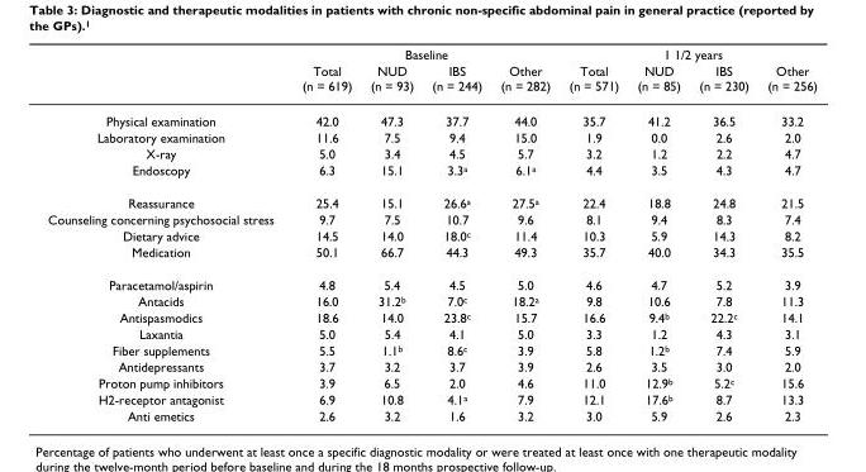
<table><thead><tr><td rowspan="2"></td><td colspan="4">Baseline</td><td colspan="4">1 1/2 years</td></tr><tr><td>Total (n = 619)</td><td>NUD (n = 93)</td><td>IBS (n = 244)</td><td>Other (n = 282)</td><td>Total (n = 571)</td><td>NUD (n = 85)</td><td>IBS (n = 230)</td><td>Other (n = 256)</td></tr></thead><tbody><tr><td>Physical examination</td><td>42.0</td><td>47.3</td><td>37.7</td><td>44.0</td><td>35.7</td><td>41.2</td><td>36.5</td><td>33.2</td></tr><tr><td>Laboratory examination</td><td>11.6</td><td>7.5</td><td>9.4</td><td>15.0</td><td>1.9</td><td>0.0</td><td>2.6</td><td>2.0</td></tr><tr><td>X-ray</td><td>5.0</td><td>3.4</td><td>4.5</td><td>5.7</td><td>3.2</td><td>1.2</td><td>2.2</td><td>4.7</td></tr><tr><td>Endoscopy</td><td>6.3</td><td>15.1</td><td>3.3<sup>a</sup></td><td>6.1<sup>a</sup></td><td>4.4</td><td>3.5</td><td>4.3</td><td>4.7</td></tr><tr><td>Reassurance</td><td>25.4</td><td>15.1</td><td>26.6<sup>a</sup></td><td>27.5<sup>a</sup></td><td>22.4</td><td>18.8</td><td>24.8</td><td>21.5</td></tr><tr><td>Counseling concerning psychosocial stress</td><td>9.7</td><td>7.5</td><td>10.7</td><td>9.6</td><td>8.1</td><td>9.4</td><td>8.3</td><td>7.4</td></tr><tr><td>Dietary advice</td><td>14.5</td><td>14.0</td><td>18.0<sup>c</sup></td><td>11.4</td><td>10.3</td><td>5.9</td><td>14.3</td><td>8.2</td></tr><tr><td>Medication</td><td>50.1</td><td>66.7</td><td>44.3</td><td>49.3</td><td>35.7</td><td>40.0</td><td>34.3</td><td>35.5</td></tr><tr><td>Paracetamol/aspirin</td><td>4.8</td><td>5.4</td><td>4.5</td><td>5.0</td><td>4.6</td><td>4.7</td><td>5.2</td><td>3.9</td></tr><tr><td>Antacids</td><td>16.0</td><td>31.2<sup>b</sup></td><td>7.0<sup>c</sup></td><td>18.2<sup>a</sup></td><td>9.8</td><td>10.6</td><td>7.8</td><td>11.3</td></tr><tr><td>Antispasmodics</td><td>18.6</td><td>14.0</td><td>23.8<sup>c</sup></td><td>15.7</td><td>16.6</td><td>9.4<sup>b</sup></td><td>22.2<sup>c</sup></td><td>14.1</td></tr><tr><td>Laxantia</td><td>5.0</td><td>5.4</td><td>4.1</td><td>5.0</td><td>3.3</td><td>1.2</td><td>4.3</td><td>3.1</td></tr><tr><td>Fiber supplements</td><td>5.5</td><td>1.1<sup>b</sup></td><td>8.6<sup>c</sup></td><td>3.9</td><td>5.8</td><td>1.2<sup>b</sup></td><td>7.4</td><td>5.9</td></tr><tr><td>Antidepressants</td><td>3.7</td><td>3.2</td><td>3.7</td><td>3.9</td><td>2.6</td><td>3.5</td><td>3.0</td><td>2.0</td></tr><tr><td>Proton pump inhibitors</td><td>3.9</td><td>6.5</td><td>2.0</td><td>4.6</td><td>11.0</td><td>12.9<sup>b</sup></td><td>5.2<sup>c</sup></td><td>15.6</td></tr><tr><td>H2-receptor antagonist</td><td>6.9</td><td>10.8</td><td>4.1<sup>a</sup></td><td>7.9</td><td>12.1</td><td>17.6<sup>b</sup></td><td>8.7</td><td>13.3</td></tr><tr><td>Anti emetics</td><td>2.6</td><td>3.2</td><td>1.6</td><td>3.2</td><td>3.0</td><td>5.9</td><td>2.6</td><td>2.3</td></tr></tbody></table>